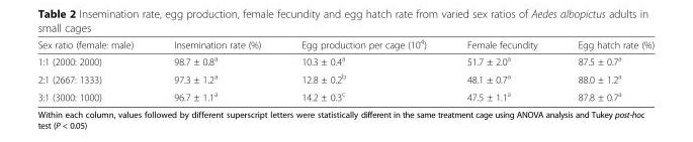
<table><thead><tr><td>Sex ratio (female: male)</td><td>Insemination rate (%)</td><td>Egg production per cage (10<sup>4</sup>)</td><td>Female fecundity</td><td>Egg hatch rate (%)</td></tr></thead><tbody><tr><td>1:1 (2000: 2000)</td><td>98.7 ± 0.8<sup>a</sup></td><td>10.3 ± 0.4<sup>a</sup></td><td>51.7 ± 2.0<sup>a</sup></td><td>87.5 ± 0.7<sup>a</sup></td></tr><tr><td>2:1 (2667: 1333)</td><td>97.3 ± 1.2<sup>a</sup></td><td>12.8 ± 0.2<sup>b</sup></td><td>48.1 ± 0.7<sup>a</sup></td><td>88.0 ± 1.2<sup>a</sup></td></tr><tr><td>3:1 (3000: 1000)</td><td>96.7 ± 1.1<sup>a</sup></td><td>14.2 ± 0.3<sup>c</sup></td><td>47.5 ± 1.1<sup>a</sup></td><td>87.8 ± 0.7<sup>a</sup></td></tr></tbody></table>